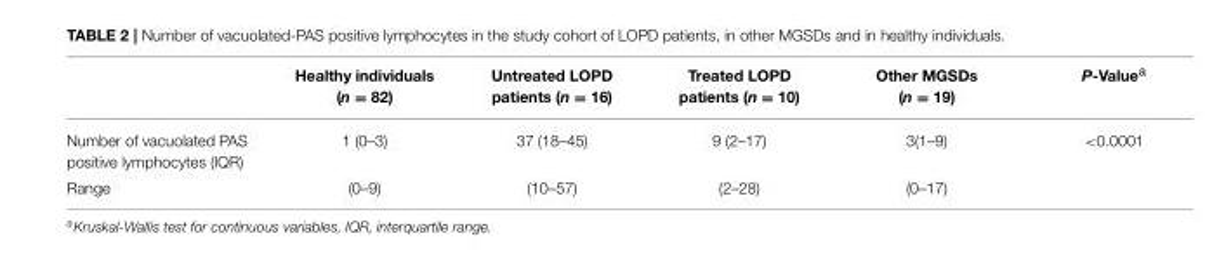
<table><thead><tr><td></td><td>Healthy individuals (n = 82)</td><td>Untreated LOPD patients (n = 16)</td><td>Treated LOPD patients (n = 10)</td><td>Other MGSDs (n = 19)</td><td>P-Value<sup>a</sup></td></tr></thead><tbody><tr><td>Number of vacuolated PAS positive lymphocytes (IQR)</td><td>1 (0–3)</td><td>37 (18–45)</td><td>9 (2–17)</td><td>3(1–9)</td><td>&lt;0.0001</td></tr><tr><td>Range</td><td>(0–9)</td><td>(10–57)</td><td>(2–28)</td><td>(0–17)</td><td></td></tr></tbody></table>